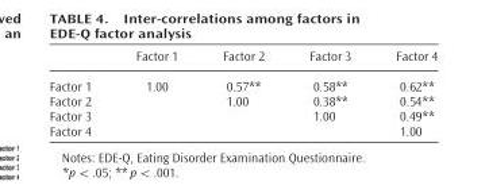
<table><thead><tr><td></td><td>Factor 1</td><td>Factor 2</td><td>Factor 3</td><td>Factor 4</td></tr></thead><tbody><tr><td>Factor 1</td><td>1.00</td><td>0.57**</td><td>0.58**</td><td>0.62**</td></tr><tr><td>Factor 2</td><td></td><td>1.00</td><td>0.38**</td><td>0.54**</td></tr><tr><td>Factor 3</td><td></td><td></td><td>1.00</td><td>0.49**</td></tr><tr><td>Factor 4</td><td></td><td></td><td></td><td>1.00</td></tr></tbody></table>